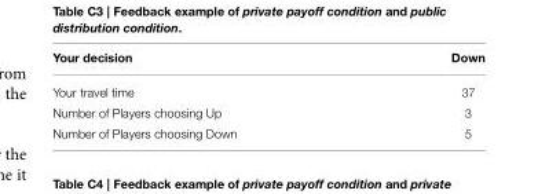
<table><thead><tr><td>Your decision</td><td>Down</td></tr></thead><tbody><tr><td>Your travel time</td><td>37</td></tr><tr><td>Number of Players choosing Up</td><td>3</td></tr><tr><td>Number of Players choosing Down</td><td>5</td></tr></tbody></table>